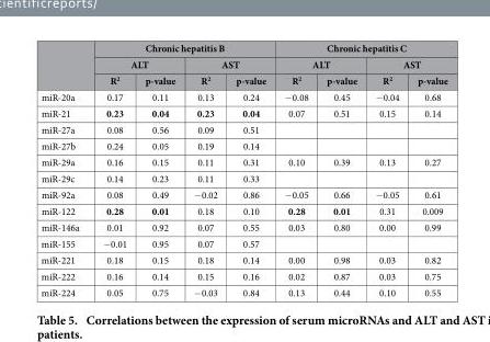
<table><thead><tr><td rowspan="3"></td><td colspan="4">Chronic hepatitis B</td><td colspan="4">Chronic hepatitis C</td></tr><tr><td colspan="2">ALT</td><td colspan="2">AST</td><td colspan="2">ALT</td><td colspan="2">AST</td></tr><tr><td>R<sup>2</sup></td><td>p-value</td><td>R<sup>2</sup></td><td>p-value</td><td>R<sup>2</sup></td><td>p-value</td><td>R<sup>2</sup></td><td>p-value</td></tr></thead><tbody><tr><td>miR-20a</td><td>0.17</td><td>0.11</td><td>0.13</td><td>0.24</td><td>− 0.08</td><td>0.45</td><td>− 0.04</td><td>0.68</td></tr><tr><td>miR-21</td><td>0.23</td><td>0.04</td><td>0.23</td><td>0.04</td><td>0.07</td><td>0.51</td><td>0.15</td><td>0.14</td></tr><tr><td>miR-27a</td><td>0.08</td><td>0.56</td><td>0.09</td><td>0.51</td><td></td><td></td><td></td><td></td></tr><tr><td>miR-27b</td><td>0.24</td><td>0.05</td><td>0.19</td><td>0.14</td><td></td><td></td><td></td><td></td></tr><tr><td>miR-29a</td><td>0.16</td><td>0.15</td><td>0.11</td><td>0.31</td><td>0.10</td><td>0.39</td><td>0.13</td><td>0.27</td></tr><tr><td>miR-29c</td><td>0.14</td><td>0.23</td><td>0.11</td><td>0.33</td><td></td><td></td><td></td><td></td></tr><tr><td>miR-92a</td><td>0.08</td><td>0.49</td><td>− 0.02</td><td>0.86</td><td>− 0.05</td><td>0.66</td><td>− 0.05</td><td>0.61</td></tr><tr><td>miR-122</td><td>0.28</td><td>0.01</td><td>0.18</td><td>0.10</td><td>0.28</td><td>0.01</td><td>0.31</td><td>0.009</td></tr><tr><td>miR-146a</td><td>0.01</td><td>0.92</td><td>0.07</td><td>0.55</td><td>0.03</td><td>0.80</td><td>0.00</td><td>0.99</td></tr><tr><td>miR-155</td><td>− 0.01</td><td>0.95</td><td>0.07</td><td>0.57</td><td></td><td></td><td></td><td></td></tr><tr><td>miR-221</td><td>0.18</td><td>0.15</td><td>0.18</td><td>0.14</td><td>0.00</td><td>0.98</td><td>0.03</td><td>0.82</td></tr><tr><td>miR-222</td><td>0.16</td><td>0.14</td><td>0.15</td><td>0.16</td><td>0.02</td><td>0.87</td><td>0.03</td><td>0.75</td></tr><tr><td>miR-224</td><td>0.05</td><td>0.75</td><td>− 0.03</td><td>0.84</td><td>0.13</td><td>0.44</td><td>0.10</td><td>0.55</td></tr></tbody></table>